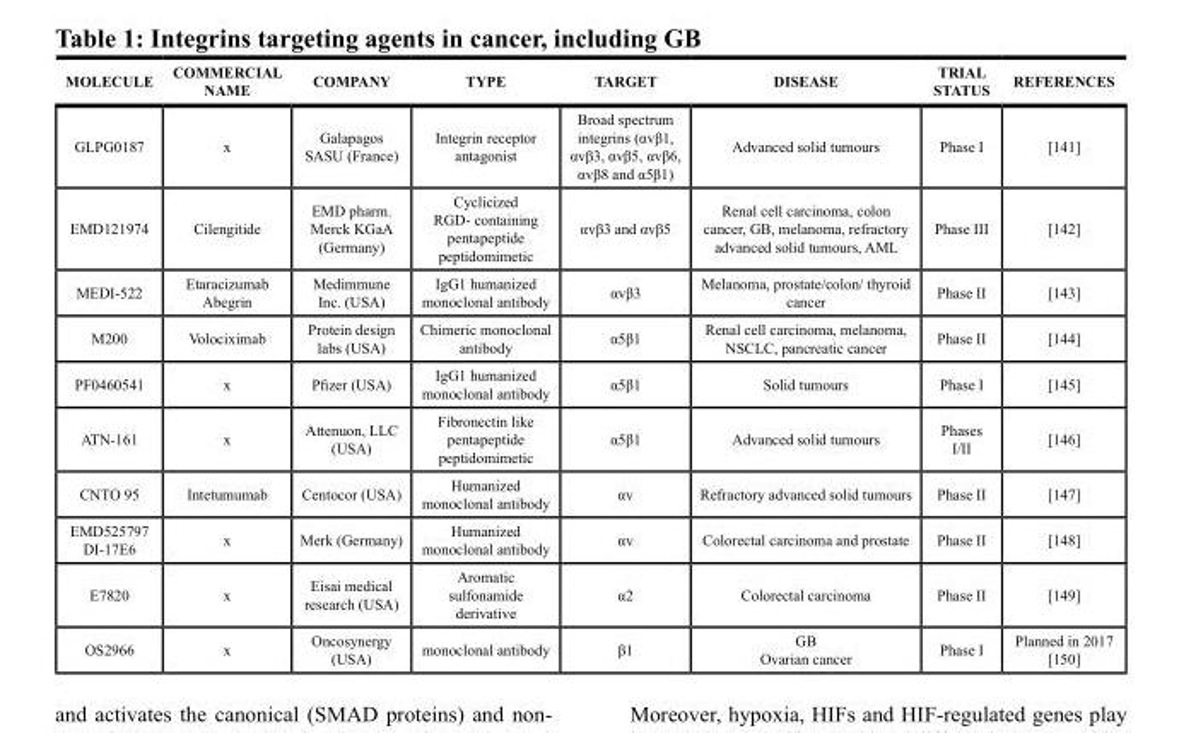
<table><thead><tr><td>MOLECULE</td><td>COMMERCIAL NAME</td><td>COMPANY</td><td>TYPE</td><td>TARGET</td><td>DISEASE</td><td>TRIAL STATUS</td><td>REFERENCES</td></tr></thead><tbody><tr><td>GLPG0187</td><td>x</td><td>Galapagos SASU (France)</td><td>Integrin receptor antagonist</td><td>Broad spectrum integrins (αvβ1, αvβ3, αvβ5, αvβ6, αvβ8 and α5β1)</td><td>Advanced solid tumours</td><td>Phase I</td><td>[141]</td></tr><tr><td>EMD121974</td><td>Cilengitide</td><td>EMD pharm. Merck KGaA (Germany)</td><td>Cyclicized RGD- containing pentapeptide peptidomimetic</td><td>αvβ3 and αvβ5</td><td>Renal cell carcinoma, colon cancer, GB, melanoma, refractory advanced solid tumours, AML</td><td>Phase III</td><td>[142]</td></tr><tr><td>MEDI-522</td><td>Etaracizumab Abegrin</td><td>Medimmune Inc. (USA)</td><td>IgG1 humanized monoclonal antibody</td><td>αvβ3</td><td>Melanoma, prostate/colon/ thyroid cancer</td><td>Phase II</td><td>[143]</td></tr><tr><td>M200</td><td>Volociximab</td><td>Protein design labs (USA)</td><td>Chimeric monoclonal antibody</td><td>α5β1</td><td>Renal cell carcinoma, melanoma, NSCLC, pancreatic cancer</td><td>Phase II</td><td>[144]</td></tr><tr><td>PF0460541</td><td>x</td><td>Pfizer (USA)</td><td>IgG1 humanized monoclonal antibody</td><td>α5β1</td><td>Solid tumours</td><td>Phase I</td><td>[145]</td></tr><tr><td>ATN-161</td><td>x</td><td>Attenuon, LLC (USA)</td><td>Fibronectin like pentapeptide peptidomimetic</td><td>α5β1</td><td>Advanced solid tumours</td><td>Phases I/II</td><td>[146]</td></tr><tr><td>CNTO 95</td><td>Intetumumab</td><td>Centocor (USA)</td><td>Humanized monoclonal antibody</td><td>αv</td><td>Refractory advanced solid tumours</td><td>Phase II</td><td>[147]</td></tr><tr><td>EMD525797 DI-17E6</td><td>x</td><td>Merk (Germany)</td><td>Humanized monoclonal antibody</td><td>αv</td><td>Colorectal carcinoma and prostate</td><td>Phase II</td><td>[148]</td></tr><tr><td>E7820</td><td>x</td><td>Eisai medical research (USA)</td><td>Aromatic sulfonamide derivative</td><td>α2</td><td>Colorectal carcinoma</td><td>Phase II</td><td>[149]</td></tr><tr><td>OS2966</td><td>x</td><td>Oncosynergy (USA)</td><td>monoclonal antibody</td><td>β1</td><td>GB Ovarian cancer</td><td>Phase I</td><td>Planned in 2017 [150]</td></tr></tbody></table>